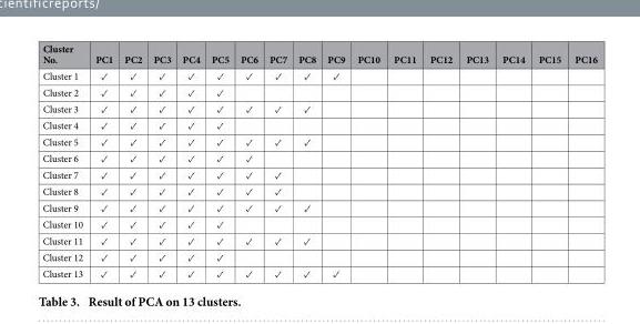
<table><thead><tr><td>Cluster No.</td><td>PC1</td><td>PC2</td><td>PC3</td><td>PC4</td><td>PC5</td><td>PC6</td><td>PC7</td><td>PC8</td><td>PC9</td><td>PC10</td><td>PC11</td><td>PC12</td><td>PC13</td><td>PC14</td><td>PC15</td><td>PC16</td></tr></thead><tbody><tr><td>Cluster 1</td><td>✓</td><td>✓</td><td>✓</td><td>✓</td><td>✓</td><td>✓</td><td>✓</td><td>✓</td><td>✓</td><td></td><td></td><td></td><td></td><td></td><td></td><td></td></tr><tr><td>Cluster 2</td><td>✓</td><td>✓</td><td>✓</td><td>✓</td><td>✓</td><td></td><td></td><td></td><td></td><td></td><td></td><td></td><td></td><td></td><td></td><td></td></tr><tr><td>Cluster 3</td><td>✓</td><td>✓</td><td>✓</td><td>✓</td><td>✓</td><td>✓</td><td>✓</td><td>✓</td><td></td><td></td><td></td><td></td><td></td><td></td><td></td><td></td></tr><tr><td>Cluster 4</td><td>✓</td><td>✓</td><td>✓</td><td>✓</td><td>✓</td><td></td><td></td><td></td><td></td><td></td><td></td><td></td><td></td><td></td><td></td><td></td></tr><tr><td>Cluster 5</td><td>✓</td><td>✓</td><td>✓</td><td>✓</td><td>✓</td><td>✓</td><td>✓</td><td>✓</td><td></td><td></td><td></td><td></td><td></td><td></td><td></td><td></td></tr><tr><td>Cluster 6</td><td>✓</td><td>✓</td><td>✓</td><td>✓</td><td>✓</td><td>✓</td><td></td><td></td><td></td><td></td><td></td><td></td><td></td><td></td><td></td><td></td></tr><tr><td>Cluster 7</td><td>✓</td><td>✓</td><td>✓</td><td>✓</td><td>✓</td><td>✓</td><td>✓</td><td></td><td></td><td></td><td></td><td></td><td></td><td></td><td></td><td></td></tr><tr><td>Cluster 8</td><td>✓</td><td>✓</td><td>✓</td><td>✓</td><td>✓</td><td>✓</td><td>✓</td><td></td><td></td><td></td><td></td><td></td><td></td><td></td><td></td><td></td></tr><tr><td>Cluster 9</td><td>✓</td><td>✓</td><td>✓</td><td>✓</td><td>✓</td><td>✓</td><td>✓</td><td>✓</td><td></td><td></td><td></td><td></td><td></td><td></td><td></td><td></td></tr><tr><td>Cluster 10</td><td>✓</td><td>✓</td><td>✓</td><td>✓</td><td>✓</td><td></td><td></td><td></td><td></td><td></td><td></td><td></td><td></td><td></td><td></td><td></td></tr><tr><td>Cluster 11</td><td>✓</td><td>✓</td><td>✓</td><td>✓</td><td>✓</td><td>✓</td><td>✓</td><td>✓</td><td></td><td></td><td></td><td></td><td></td><td></td><td></td><td></td></tr><tr><td>Cluster 12</td><td>✓</td><td>✓</td><td>✓</td><td>✓</td><td>✓</td><td></td><td></td><td></td><td></td><td></td><td></td><td></td><td></td><td></td><td></td><td></td></tr><tr><td>Cluster 13</td><td>✓</td><td>✓</td><td>✓</td><td>✓</td><td>✓</td><td>✓</td><td>✓</td><td>✓</td><td>✓</td><td></td><td></td><td></td><td></td><td></td><td></td><td></td></tr></tbody></table>